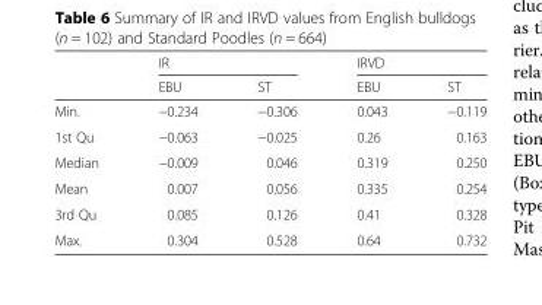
<table><thead><tr><td rowspan="2"></td><td colspan="2">IR</td><td colspan="2">IRVD</td></tr><tr><td>EBU</td><td>ST</td><td>EBU</td><td>ST</td></tr></thead><tbody><tr><td>Min.</td><td>−0.234</td><td>−0.306</td><td>0.043</td><td>−0.119</td></tr><tr><td>1st Qu</td><td>−0.063</td><td>−0.025</td><td>0.26</td><td>0.163</td></tr><tr><td>Median</td><td>−0.009</td><td>0.046</td><td>0.319</td><td>0.250</td></tr><tr><td>Mean</td><td>0.007</td><td>0.056</td><td>0.335</td><td>0.254</td></tr><tr><td>3rd Qu</td><td>0.085</td><td>0.126</td><td>0.41</td><td>0.328</td></tr><tr><td>Max.</td><td>0.304</td><td>0.528</td><td>0.64</td><td>0.732</td></tr></tbody></table>